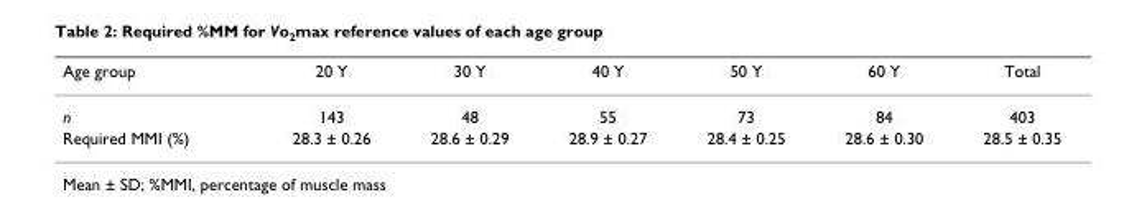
<table><thead><tr><td>Age group</td><td>20 Y</td><td>30 Y</td><td>40 Y</td><td>50 Y</td><td>60 Y</td><td>Total</td></tr></thead><tbody><tr><td>n</td><td>143</td><td>48</td><td>55</td><td>73</td><td>84</td><td>403</td></tr><tr><td>Required MMI (%)</td><td>28.3 ± 0.26</td><td>28.6 ± 0.29</td><td>28.9 ± 0.27</td><td>28.4 ± 0.25</td><td>28.6 ± 0.30</td><td>28.5 ± 0.35</td></tr></tbody></table>